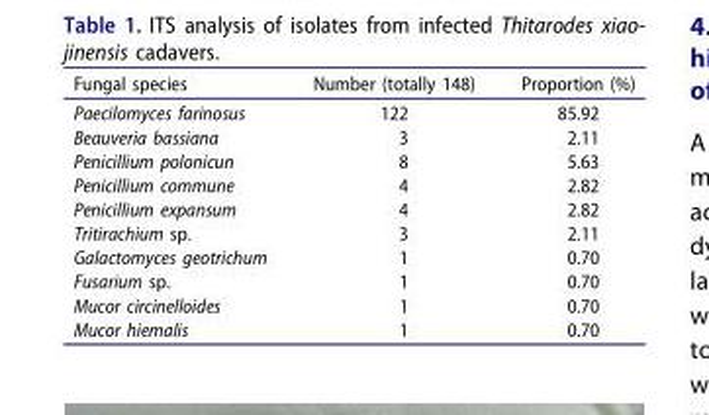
<table><thead><tr><td>Fungal species</td><td>Number (totally 148)</td><td>Proportion (%)</td></tr></thead><tbody><tr><td>Paecilomyces farinosus</td><td>122</td><td>85.92</td></tr><tr><td>Beauveria bassiana</td><td>3</td><td>2.11</td></tr><tr><td>Penicillium polonicun</td><td>8</td><td>5.63</td></tr><tr><td>Penicillium commune</td><td>4</td><td>2.82</td></tr><tr><td>Penicillium expansum</td><td>4</td><td>2.82</td></tr><tr><td>Tritirachium sp.</td><td>3</td><td>2.11</td></tr><tr><td>Galactomyces geotrichum</td><td>1</td><td>0.70</td></tr><tr><td>Fusarium sp.</td><td>1</td><td>0.70</td></tr><tr><td>Mucor circinelloides</td><td>1</td><td>0.70</td></tr><tr><td>Mucor hiemalis</td><td>1</td><td>0.70</td></tr></tbody></table>